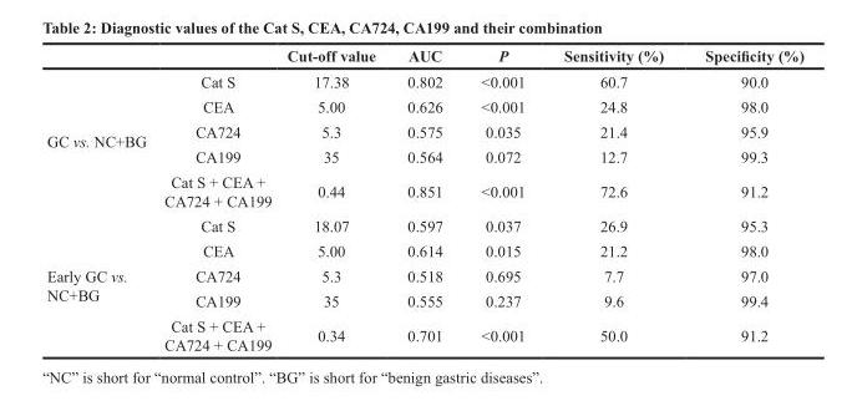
<table><thead><tr><td></td><td></td><td>Cut-off value</td><td>AUC</td><td>P</td><td>Sensitivity (%)</td><td>Specificity (%)</td></tr></thead><tbody><tr><td rowspan="5">GC vs. NC+BG</td><td>Cat S</td><td>17.38</td><td>0.802</td><td>&lt;0.001</td><td>60.7</td><td>90.0</td></tr><tr><td>CEA</td><td>5.00</td><td>0.626</td><td>&lt;0.001</td><td>24.8</td><td>98.0</td></tr><tr><td>CA724</td><td>5.3</td><td>0.575</td><td>0.035</td><td>21.4</td><td>95.9</td></tr><tr><td>CA199</td><td>35</td><td>0.564</td><td>0.072</td><td>12.7</td><td>99.3</td></tr><tr><td>Cat S + CEA + CA724 + CA199</td><td>0.44</td><td>0.851</td><td>&lt;0.001</td><td>72.6</td><td>91.2</td></tr><tr><td rowspan="5">Early GC vs. NC+BG</td><td>Cat S</td><td>18.07</td><td>0.597</td><td>0.037</td><td>26.9</td><td>95.3</td></tr><tr><td>CEA</td><td>5.00</td><td>0.614</td><td>0.015</td><td>21.2</td><td>98.0</td></tr><tr><td>CA724</td><td>5.3</td><td>0.518</td><td>0.695</td><td>7.7</td><td>97.0</td></tr><tr><td>CA199</td><td>35</td><td>0.555</td><td>0.237</td><td>9.6</td><td>99.4</td></tr><tr><td>Cat S + CEA + CA724 + CA199</td><td>0.34</td><td>0.701</td><td>&lt;0.001</td><td>50.0</td><td>91.2</td></tr></tbody></table>